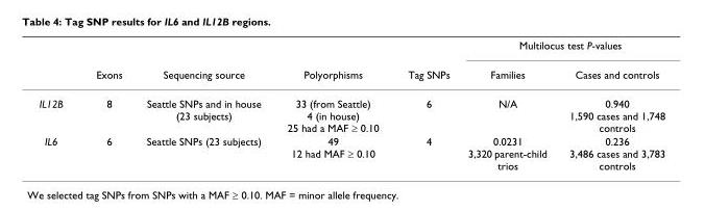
<table><thead><tr><td rowspan="2"></td><td rowspan="2">Exons</td><td rowspan="2">Sequencing source</td><td rowspan="2">Polyorphisms</td><td rowspan="2">Tag SNPs</td><td colspan="2">Multilocus test P-values</td></tr><tr><td>Families</td><td>Cases and controls</td></tr></thead><tbody><tr><td>IL12B</td><td>8</td><td>Seattle SNPs and in house (23 subjects)</td><td>33 (from Seattle) 4 (in house) 25 had a MAF ≥ 0.10</td><td>6</td><td>N/A</td><td>0.940 1,590 cases and 1,748 controls</td></tr><tr><td>IL6</td><td>6</td><td>Seattle SNPs (23 subjects)</td><td>49 12 had MAF ≥ 0.10</td><td>4</td><td>0.0231 3,320 parent-child trios</td><td>0.236 3,486 cases and 3,783 controls</td></tr></tbody></table>